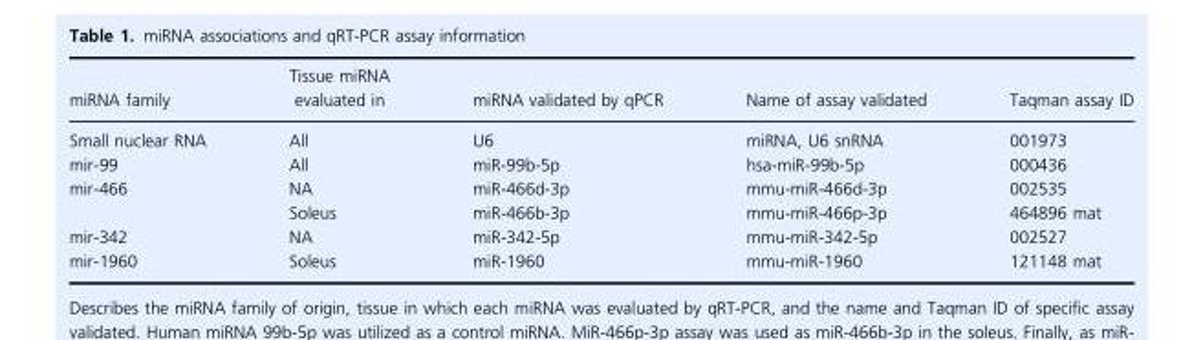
<table><thead><tr><td>miRNA family</td><td>Tissue miRNA evaluated in</td><td>miRNA validated by qPCR</td><td>Name of assay validated</td><td>Taqman assay ID</td></tr></thead><tbody><tr><td>Small nuclear RNA</td><td>All</td><td>U6</td><td>miRNA, U6 snRNA</td><td>001973</td></tr><tr><td>mir-99</td><td>All</td><td>miR-99b-5p</td><td>hsa-miR-99b-5p</td><td>000436</td></tr><tr><td rowspan="2">mir-466</td><td>NA</td><td>miR-466d-3p</td><td>mmu-miR-466d-3p</td><td>002535</td></tr><tr><td>Soleus</td><td>miR-466b-3p</td><td>mmu-miR-466p-3p</td><td>464896 mat</td></tr><tr><td>mir-342</td><td>NA</td><td>miR-342-5p</td><td>mmu-miR-342-5p</td><td>002527</td></tr><tr><td>mir-1960</td><td>Soleus</td><td>miR-1960</td><td>mmu-miR-1960</td><td>121148 mat</td></tr></tbody></table>